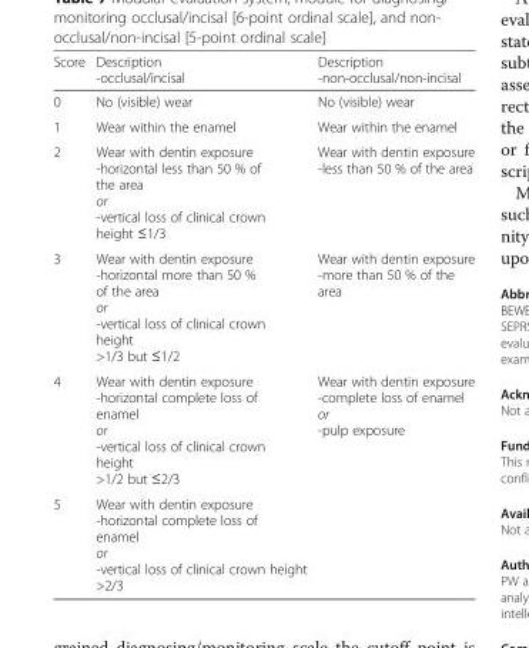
<table><thead><tr><td>Score</td><td>Description -occlusal/incisal</td><td>Description -non-occlusal/non-incisal</td></tr></thead><tbody><tr><td>0</td><td>No (visible) wear</td><td>No (visible) wear</td></tr><tr><td>1</td><td>Wear within the enamel</td><td>Wear within the enamel</td></tr><tr><td>2</td><td>Wear with dentin exposure -horizontal less than 50 % of the area or -vertical loss of clinical crown height ≤1/3</td><td>Wear with dentin exposure -less than 50 % of the area</td></tr><tr><td>3</td><td>Wear with dentin exposure -horizontal more than 50 % of the area or -vertical loss of clinical crown height &gt;1/3 but ≤1/2</td><td>Wear with dentin exposure -more than 50 % of the area</td></tr><tr><td>4</td><td>Wear with dentin exposure -horizontal complete loss of enamel or -vertical loss of clinical crown height &gt;1/2 but ≤2/3</td><td>Wear with dentin exposure -complete loss of enamel or -pulp exposure</td></tr><tr><td>5</td><td>Wear with dentin exposure -horizontal complete loss of enamel or -vertical loss of clinical crown height &gt;2/3</td><td></td></tr></tbody></table>